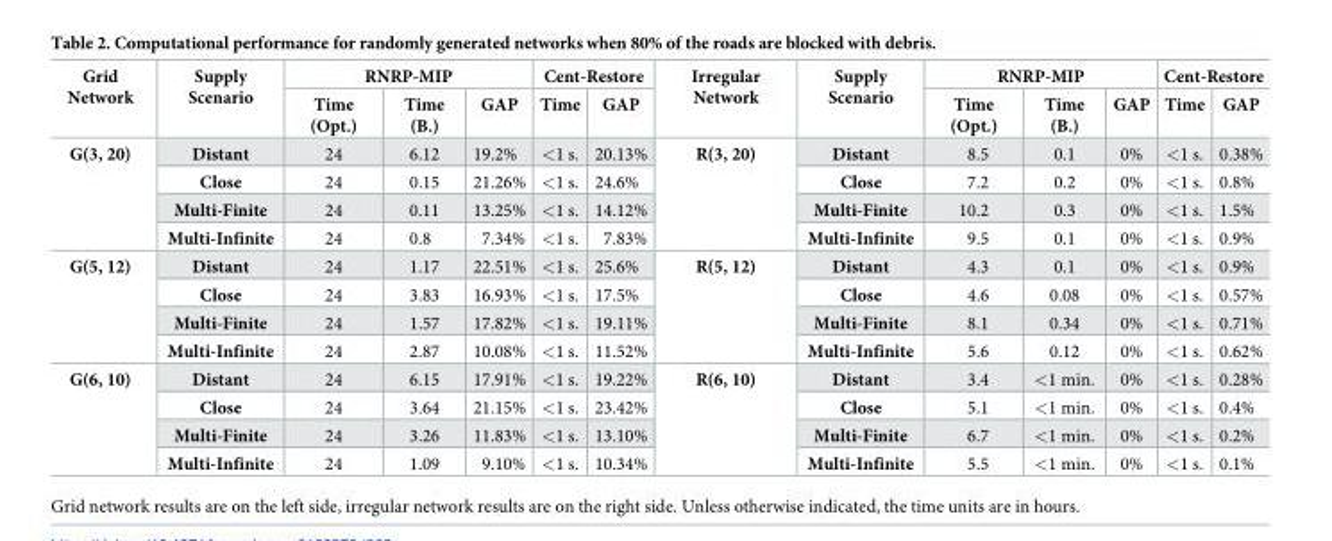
<table><thead><tr><td rowspan="2">Grid Network</td><td rowspan="2">Supply Scenario</td><td colspan="3">RNRP-MIP</td><td colspan="2">Cent-Restore</td><td rowspan="2">Irregular Network</td><td rowspan="2">Supply Scenario</td><td colspan="3">RNRP-MIP</td><td colspan="2">Cent-Restore</td></tr><tr><td>Time (Opt.)</td><td>Time (B.)</td><td>GAP</td><td>Time</td><td>GAP</td><td>Time (Opt.)</td><td>Time (B.)</td><td>GAP</td><td>Time</td><td>GAP</td></tr></thead><tbody><tr><td rowspan="4">G(3, 20)</td><td>Distant</td><td>24</td><td>6.12</td><td>19.2%</td><td>&lt;1 s.</td><td>20.13%</td><td rowspan="4">R(3, 20)</td><td>Distant</td><td>8.5</td><td>0.1</td><td>0%</td><td>&lt;1 s.</td><td>0.38%</td></tr><tr><td>Close</td><td>24</td><td>0.15</td><td>21.26%</td><td>&lt;1 s.</td><td>24.6%</td><td>Close</td><td>7.2</td><td>0.2</td><td>0%</td><td>&lt;1 s.</td><td>0.8%</td></tr><tr><td>Multi-Finite</td><td>24</td><td>0.11</td><td>13.25%</td><td>&lt;1 s.</td><td>14.12%</td><td>Multi-Finite</td><td>10.2</td><td>0.3</td><td>0%</td><td>&lt;1 s.</td><td>1.5%</td></tr><tr><td>Multi-Infinite</td><td>24</td><td>0.8</td><td>7.34%</td><td>&lt;1 s.</td><td>7.83%</td><td>Multi-Infinite</td><td>9.5</td><td>0.1</td><td>0%</td><td>&lt;1 s.</td><td>0.9%</td></tr><tr><td rowspan="4">G(5, 12)</td><td>Distant</td><td>24</td><td>1.17</td><td>22.51%</td><td>&lt;1 s.</td><td>25.6%</td><td rowspan="4">R(5, 12)</td><td>Distant</td><td>4.3</td><td>0.1</td><td>0%</td><td>&lt;1 s.</td><td>0.9%</td></tr><tr><td>Close</td><td>24</td><td>3.83</td><td>16.93%</td><td>&lt;1 s.</td><td>17.5%</td><td>Close</td><td>4.6</td><td>0.08</td><td>0%</td><td>&lt;1 s.</td><td>0.57%</td></tr><tr><td>Multi-Finite</td><td>24</td><td>1.57</td><td>17.82%</td><td>&lt;1 s.</td><td>19.11%</td><td>Multi-Finite</td><td>8.1</td><td>0.34</td><td>0%</td><td>&lt;1 s.</td><td>0.71%</td></tr><tr><td>Multi-Infinite</td><td>24</td><td>2.87</td><td>10.08%</td><td>&lt;1 s.</td><td>11.52%</td><td>Multi-Infinite</td><td>5.6</td><td>0.12</td><td>0%</td><td>&lt;1 s.</td><td>0.62%</td></tr><tr><td rowspan="4">G(6, 10)</td><td>Distant</td><td>24</td><td>6.15</td><td>17.91%</td><td>&lt;1 s.</td><td>19.22%</td><td rowspan="4">R(6, 10)</td><td>Distant</td><td>3.4</td><td>&lt;1 min.</td><td>0%</td><td>&lt;1 s.</td><td>0.28%</td></tr><tr><td>Close</td><td>24</td><td>3.64</td><td>21.15%</td><td>&lt;1 s.</td><td>23.42%</td><td>Close</td><td>5.1</td><td>&lt;1 min.</td><td>0%</td><td>&lt;1 s.</td><td>0.4%</td></tr><tr><td>Multi-Finite</td><td>24</td><td>3.26</td><td>11.83%</td><td>&lt;1 s.</td><td>13.10%</td><td>Multi-Finite</td><td>6.7</td><td>&lt;1 min.</td><td>0%</td><td>&lt;1 s.</td><td>0.2%</td></tr><tr><td>Multi-Infinite</td><td>24</td><td>1.09</td><td>9.10%</td><td>&lt;1 s.</td><td>10.34%</td><td>Multi-Infinite</td><td>5.5</td><td>&lt;1 min.</td><td>0%</td><td>&lt;1 s.</td><td>0.1%</td></tr></tbody></table>